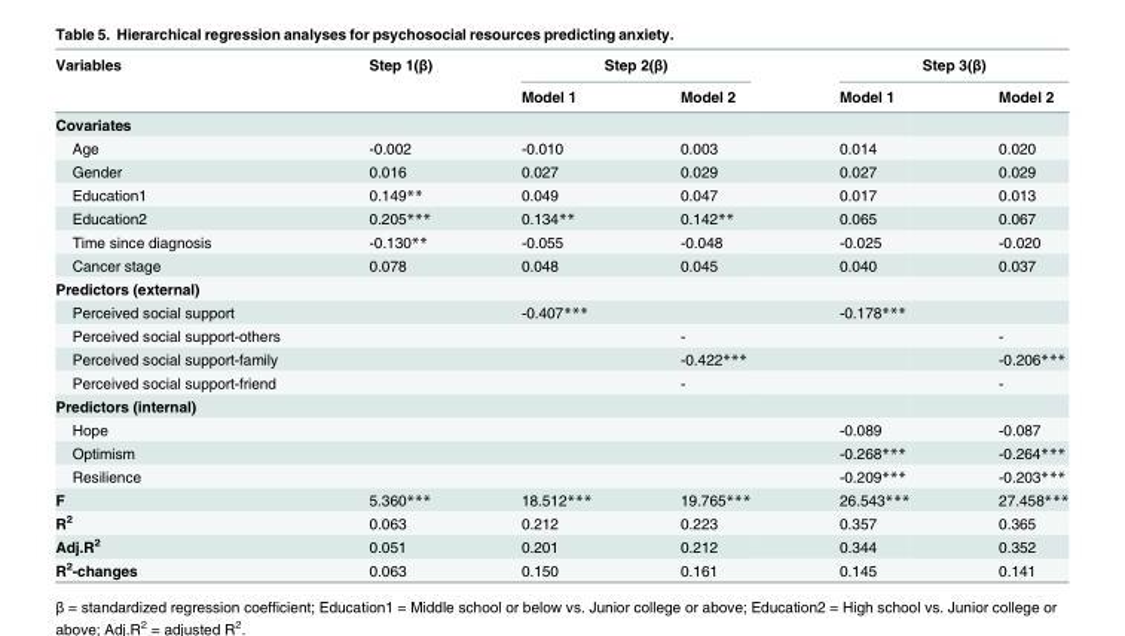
<table><thead><tr><td rowspan="2">Variables</td><td rowspan="2">Step 1(β)</td><td colspan="2">Step 2(β)</td><td colspan="2">Step 3(β)</td></tr><tr><td>Model 1</td><td>Model 2</td><td>Model 1</td><td>Model 2</td></tr></thead><tbody><tr><td colspan="6">Covariates</td></tr><tr><td>Age</td><td>-0.002</td><td>-0.010</td><td>0.003</td><td>0.014</td><td>0.020</td></tr><tr><td>Gender</td><td>0.016</td><td>0.027</td><td>0.029</td><td>0.027</td><td>0.029</td></tr><tr><td>Education1</td><td>0.149**</td><td>0.049</td><td>0.047</td><td>0.017</td><td>0.013</td></tr><tr><td>Education2</td><td>0.205***</td><td>0.134**</td><td>0.142**</td><td>0.065</td><td>0.067</td></tr><tr><td>Time since diagnosis</td><td>-0.130**</td><td>-0.055</td><td>-0.048</td><td>-0.025</td><td>-0.020</td></tr><tr><td>Cancer stage</td><td>0.078</td><td>0.048</td><td>0.045</td><td>0.040</td><td>0.037</td></tr><tr><td colspan="6">Predictors (external)</td></tr><tr><td>Perceived social support</td><td></td><td>-0.407***</td><td></td><td>-0.178***</td><td></td></tr><tr><td>Perceived social support-others</td><td></td><td></td><td>-</td><td></td><td>-</td></tr><tr><td>Perceived social support-family</td><td></td><td></td><td>-0.422***</td><td></td><td>-0.206***</td></tr><tr><td>Perceived social support-friend</td><td></td><td></td><td>-</td><td></td><td>-</td></tr><tr><td colspan="6">Predictors (internal)</td></tr><tr><td>Hope</td><td></td><td></td><td></td><td>-0.089</td><td>-0.087</td></tr><tr><td>Optimism</td><td></td><td></td><td></td><td>-0.268***</td><td>-0.264***</td></tr><tr><td>Resilience</td><td></td><td></td><td></td><td>-0.209***</td><td>-0.203***</td></tr><tr><td>F</td><td>5.360***</td><td>18.512***</td><td>19.765***</td><td>26.543***</td><td>27.458***</td></tr><tr><td>R<sup>2</sup></td><td>0.063</td><td>0.212</td><td>0.223</td><td>0.357</td><td>0.365</td></tr><tr><td>Adj.R<sup>2</sup></td><td>0.051</td><td>0.201</td><td>0.212</td><td>0.344</td><td>0.352</td></tr><tr><td>R<sup>2</sup>-changes</td><td>0.063</td><td>0.150</td><td>0.161</td><td>0.145</td><td>0.141</td></tr></tbody></table>